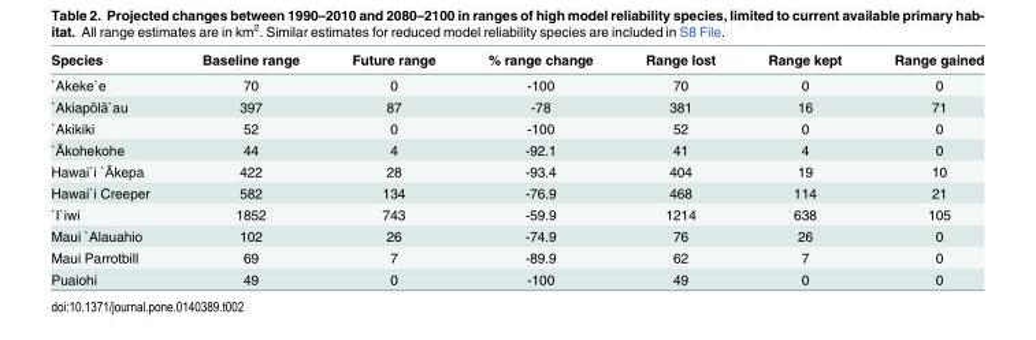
<table><thead><tr><td>Species</td><td>Baseline range</td><td>Future range</td><td>% range change</td><td>Range lost</td><td>Range kept</td><td>Range gained</td></tr></thead><tbody><tr><td>`Akeke`e</td><td>70</td><td>0</td><td>-100</td><td>70</td><td>0</td><td>0</td></tr><tr><td>`Akiapōlā`au</td><td>397</td><td>87</td><td>-78</td><td>381</td><td>16</td><td>71</td></tr><tr><td>`Akikiki</td><td>52</td><td>0</td><td>-100</td><td>52</td><td>0</td><td>0</td></tr><tr><td>`Ākohekohe</td><td>44</td><td>4</td><td>-92.1</td><td>41</td><td>4</td><td>0</td></tr><tr><td>Hawai`i `Ākepa</td><td>422</td><td>28</td><td>-93.4</td><td>404</td><td>19</td><td>10</td></tr><tr><td>Hawai`i Creeper</td><td>582</td><td>134</td><td>-76.9</td><td>468</td><td>114</td><td>21</td></tr><tr><td>`I`iwi</td><td>1852</td><td>743</td><td>-59.9</td><td>1214</td><td>638</td><td>105</td></tr><tr><td>Maui `Alauahio</td><td>102</td><td>26</td><td>-74.9</td><td>76</td><td>26</td><td>0</td></tr><tr><td>Maui Parrotbill</td><td>69</td><td>7</td><td>-89.9</td><td>62</td><td>7</td><td>0</td></tr><tr><td>Puaiohi</td><td>49</td><td>0</td><td>-100</td><td>49</td><td>0</td><td>0</td></tr></tbody></table>